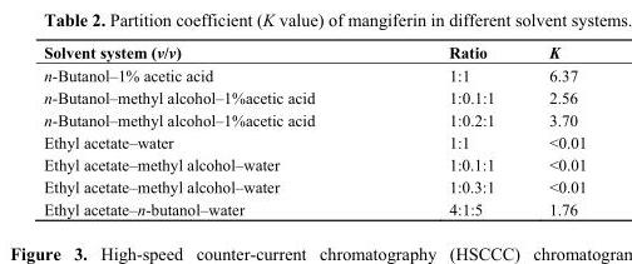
<table><thead><tr><td>Solvent system (v/v)</td><td>Ratio</td><td>K</td></tr></thead><tbody><tr><td>n-Butanol–1% acetic acid</td><td>1:1</td><td>6.37</td></tr><tr><td>n-Butanol–methyl alcohol–1%acetic acid</td><td>1:0.1:1</td><td>2.56</td></tr><tr><td>n-Butanol–methyl alcohol–1%acetic acid</td><td>1:0.2:1</td><td>3.70</td></tr><tr><td>Ethyl acetate–water</td><td>1:1</td><td>&lt;0.01</td></tr><tr><td>Ethyl acetate–methyl alcohol–water</td><td>1:0.1:1</td><td>&lt;0.01</td></tr><tr><td>Ethyl acetate–methyl alcohol–water</td><td>1:0.3:1</td><td>&lt;0.01</td></tr><tr><td>Ethyl acetate–n-butanol–water</td><td>4:1:5</td><td>1.76</td></tr></tbody></table>